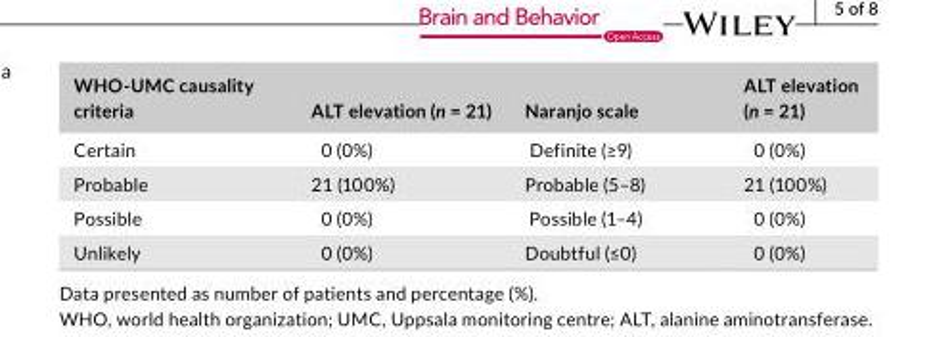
<table><thead><tr><td>WHO- UMC causality criteria</td><td>ALT elevation (n = 21)</td><td>Naranjo scale</td><td>ALT elevation (n = 21)</td></tr></thead><tbody><tr><td>Certain</td><td>0 (0%)</td><td>Definite (≥9)</td><td>0 (0%)</td></tr><tr><td>Probable</td><td>21 (100%)</td><td>Probable (5–8)</td><td>21 (100%)</td></tr><tr><td>Possible</td><td>0 (0%)</td><td>Possible (1–4)</td><td>0 (0%)</td></tr><tr><td>Unlikely</td><td>0 (0%)</td><td>Doubtful (≤0)</td><td>0 (0%)</td></tr></tbody></table>